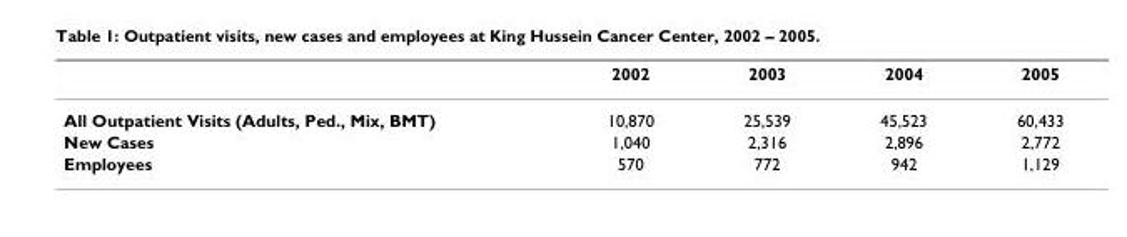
<table><thead><tr><td></td><td>2002</td><td>2003</td><td>2004</td><td>2005</td></tr></thead><tbody><tr><td>All Outpatient Visits (Adults, Ped., Mix, BMT)</td><td>10,870</td><td>25,539</td><td>45,523</td><td>60,433</td></tr><tr><td>New Cases</td><td>1,040</td><td>2,316</td><td>2,896</td><td>2,772</td></tr><tr><td>Employees</td><td>570</td><td>772</td><td>942</td><td>1,129</td></tr></tbody></table>